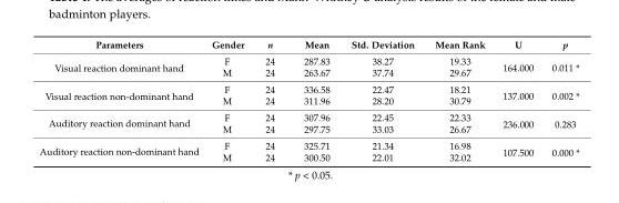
<table><thead><tr><td>Parameters</td><td>Gender</td><td>n</td><td>Mean</td><td>Std. Deviation</td><td>Mean Rank</td><td>U</td><td>p</td></tr></thead><tbody><tr><td rowspan="2">Visual reaction dominant hand</td><td>F</td><td>24</td><td>287.83</td><td>38.27</td><td>19.33</td><td rowspan="2">164.000</td><td rowspan="2">0.011 *</td></tr><tr><td>M</td><td>24</td><td>263.67</td><td>37.74</td><td>29.67</td></tr><tr><td rowspan="2">Visual reaction non-dominant hand</td><td>F</td><td>24</td><td>336.58</td><td>22.47</td><td>18.21</td><td rowspan="2">137.000</td><td rowspan="2">0.002 *</td></tr><tr><td>M</td><td>24</td><td>311.96</td><td>28.20</td><td>30.79</td></tr><tr><td rowspan="2">Auditory reaction dominant hand</td><td>F</td><td>24</td><td>307.96</td><td>22.45</td><td>22.33</td><td rowspan="2">236.000</td><td rowspan="2">0.283</td></tr><tr><td>M</td><td>24</td><td>297.75</td><td>33.03</td><td>26.67</td></tr><tr><td rowspan="2">Auditory reaction non-dominant hand</td><td>F</td><td>24</td><td>325.71</td><td>21.34</td><td>16.98</td><td rowspan="2">107.500</td><td rowspan="2">0.000 *</td></tr><tr><td>M</td><td>24</td><td>300.50</td><td>22.01</td><td>32.02</td></tr></tbody></table>